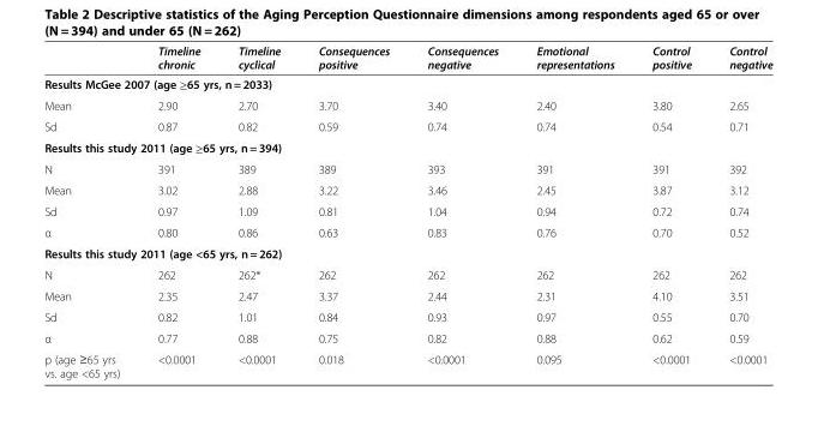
<table><thead><tr><td></td><td>Timeline chronic</td><td>Timeline cyclical</td><td>Consequences positive</td><td>Consequences negative</td><td>Emotional representations</td><td>Control positive</td><td>Control negative</td></tr></thead><tbody><tr><td colspan="8">Results McGee 2007 (age ≥65 yrs, n = 2033)</td></tr><tr><td>Mean</td><td>2.90</td><td>2.70</td><td>3.70</td><td>3.40</td><td>2.40</td><td>3.80</td><td>2.65</td></tr><tr><td>Sd</td><td>0.87</td><td>0.82</td><td>0.59</td><td>0.74</td><td>0.74</td><td>0.54</td><td>0.71</td></tr><tr><td colspan="8">Results this study 2011 (age ≥65 yrs, n = 394)</td></tr><tr><td>N</td><td>391</td><td>389</td><td>389</td><td>393</td><td>391</td><td>391</td><td>392</td></tr><tr><td>Mean</td><td>3.02</td><td>2.88</td><td>3.22</td><td>3.46</td><td>2.45</td><td>3.87</td><td>3.12</td></tr><tr><td>Sd</td><td>0.97</td><td>1.09</td><td>0.81</td><td>1.04</td><td>0.94</td><td>0.72</td><td>0.74</td></tr><tr><td>α</td><td>0.80</td><td>0.86</td><td>0.63</td><td>0.83</td><td>0.76</td><td>0.70</td><td>0.52</td></tr><tr><td colspan="8">Results this study 2011 (age &lt;65 yrs, n = 262)</td></tr><tr><td>N</td><td>262</td><td>262*</td><td>262</td><td>262</td><td>262</td><td>262</td><td>262</td></tr><tr><td>Mean</td><td>2.35</td><td>2.47</td><td>3.37</td><td>2.44</td><td>2.31</td><td>4.10</td><td>3.51</td></tr><tr><td>Sd</td><td>0.82</td><td>1.01</td><td>0.84</td><td>0.93</td><td>0.97</td><td>0.55</td><td>0.70</td></tr><tr><td>α</td><td>0.77</td><td>0.88</td><td>0.75</td><td>0.82</td><td>0.88</td><td>0.62</td><td>0.59</td></tr><tr><td>p (age ≥65 yrs vs. age &lt;65 yrs)</td><td>&lt;0.0001</td><td>&lt;0.0001</td><td>0.018</td><td>&lt;0.0001</td><td>0.095</td><td>&lt;0.0001</td><td>&lt;0.0001</td></tr></tbody></table>